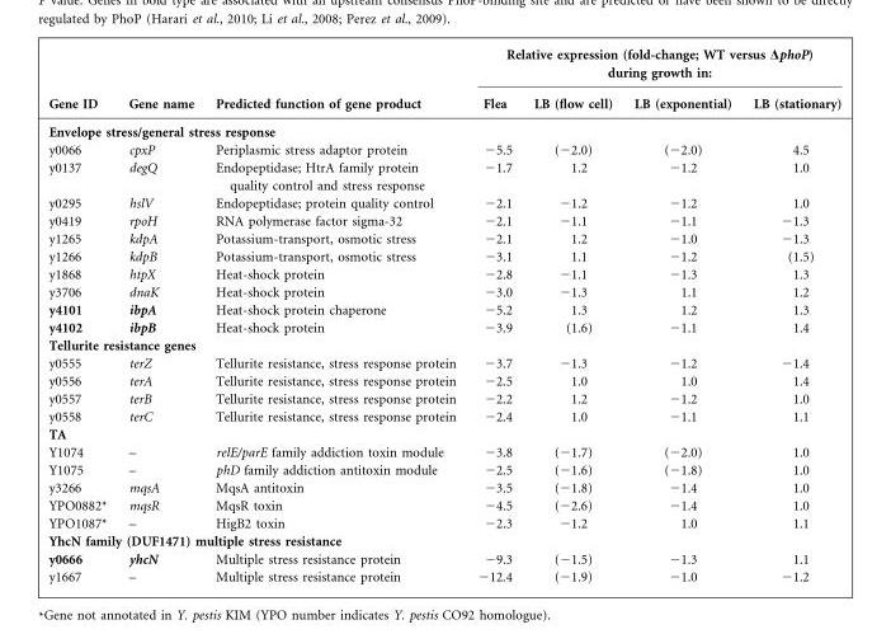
<table><thead><tr><td rowspan="2">Gene ID</td><td rowspan="2">Gene name</td><td rowspan="2">Predicted function of gene product</td><td colspan="4">Relative expression (fold-change; WT versus ΔphoP) during growth in:</td></tr><tr><td>Flea</td><td>LB (flow cell)</td><td>LB (exponential)</td><td>LB (stationary)</td></tr></thead><tbody><tr><td colspan="7">Envelope stress/general stress response</td></tr><tr><td>y0066</td><td>cpxP</td><td>Periplasmic stress adaptor protein</td><td>−5.5</td><td>(−2.0)</td><td>(−2.0)</td><td>4.5</td></tr><tr><td>y0137</td><td>degQ</td><td>Endopeptidase; HtrA family protein quality control and stress response</td><td>−1.7</td><td>1.2</td><td>−1.2</td><td>1.0</td></tr><tr><td>y0295</td><td>hslV</td><td>Endopeptidase; protein quality control</td><td>−2.1</td><td>−1.2</td><td>−1.2</td><td>1.0</td></tr><tr><td>y0419</td><td>rpoH</td><td>RNA polymerase factor sigma-32</td><td>−2.1</td><td>−1.1</td><td>−1.1</td><td>−1.3</td></tr><tr><td>y1265</td><td>kdpA</td><td>Potassium-transport, osmotic stress</td><td>−2.1</td><td>1.2</td><td>−1.0</td><td>−1.3</td></tr><tr><td>y1266</td><td>kdpB</td><td>Potassium-transport, osmotic stress</td><td>−3.1</td><td>1.1</td><td>−1.2</td><td>(1.5)</td></tr><tr><td>y1868</td><td>htpX</td><td>Heat-shock protein</td><td>−2.8</td><td>−1.1</td><td>−1.3</td><td>1.3</td></tr><tr><td>y3706</td><td>dnaK</td><td>Heat-shock protein</td><td>−3.0</td><td>−1.3</td><td>1.1</td><td>1.2</td></tr><tr><td>y4101</td><td>ibpA</td><td>Heat-shock protein chaperone</td><td>−5.2</td><td>1.3</td><td>1.2</td><td>1.3</td></tr><tr><td>y4102</td><td>ibpB</td><td>Heat-shock protein</td><td>−3.9</td><td>(1.6)</td><td>−1.1</td><td>1.4</td></tr><tr><td colspan="7">Tellurite resistance genes</td></tr><tr><td>y0555</td><td>terZ</td><td>Tellurite resistance, stress response protein</td><td>−3.7</td><td>−1.3</td><td>−1.2</td><td>−1.4</td></tr><tr><td>y0556</td><td>terA</td><td>Tellurite resistance, stress response protein</td><td>−2.5</td><td>1.0</td><td>1.0</td><td>1.4</td></tr><tr><td>y0557</td><td>terB</td><td>Tellurite resistance, stress response protein</td><td>−2.2</td><td>1.2</td><td>−1.2</td><td>1.0</td></tr><tr><td>y0558</td><td>terC</td><td>Tellurite resistance, stress response protein</td><td>−2.4</td><td>1.0</td><td>−1.1</td><td>1.1</td></tr><tr><td colspan="7">TA</td></tr><tr><td>Y1074</td><td>–</td><td>relE/parE family addiction toxin module</td><td>−3.8</td><td>(−1.7)</td><td>(−2.0)</td><td>1.0</td></tr><tr><td>Y1075</td><td>–</td><td>phD family addiction antitoxin module</td><td>−2.5</td><td>(−1.6)</td><td>(−1.8)</td><td>1.0</td></tr><tr><td>y3266</td><td>mqsA</td><td>MqsA antitoxin</td><td>−3.5</td><td>(−1.8)</td><td>−1.4</td><td>1.0</td></tr><tr><td>YPO0882*</td><td>mqsR</td><td>MqsR toxin</td><td>−4.5</td><td>(−2.6)</td><td>−1.4</td><td>1.0</td></tr><tr><td>YPO1087*</td><td>–</td><td>HigB2 toxin</td><td>−2.3</td><td>−1.2</td><td>1.0</td><td>1.1</td></tr><tr><td colspan="7">YhcN family (DUF1471) multiple stress resistance</td></tr><tr><td>y0666</td><td>yhcN</td><td>Multiple stress resistance protein</td><td>−9.3</td><td>(−1.5)</td><td>−1.3</td><td>1.1</td></tr><tr><td>y1667</td><td>–</td><td>Multiple stress resistance protein</td><td>−12.4</td><td>(−1.9)</td><td>−1.0</td><td>−1.2</td></tr></tbody></table>